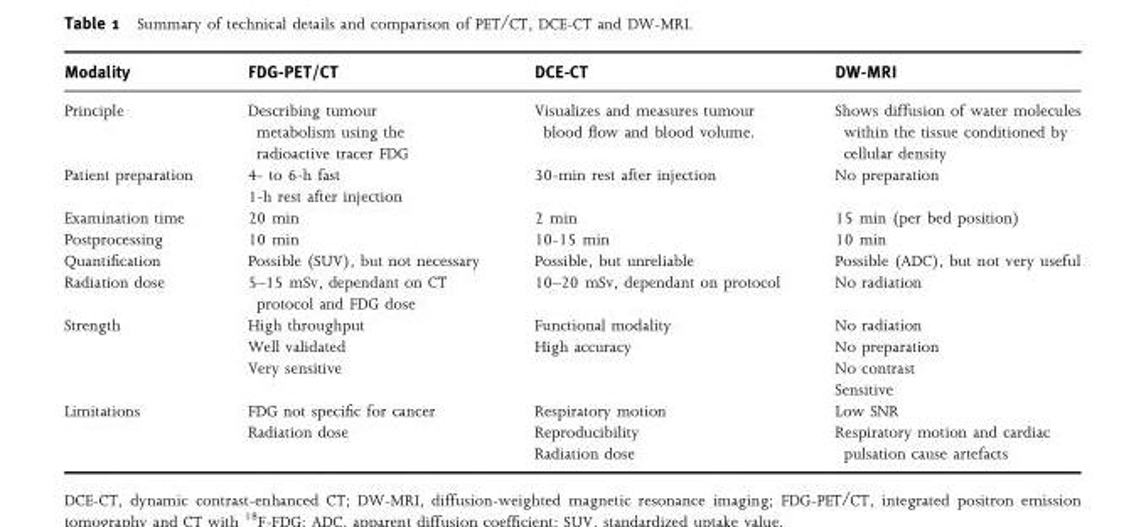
<table><thead><tr><td>Modality</td><td>FDG-PET/CT</td><td>DCE-CT</td><td>DW-MRI</td></tr></thead><tbody><tr><td>Principle</td><td>Describing tumour metabolism using the radioactive tracer FDG</td><td>Visualizes and measures tumour blood flow and blood volume.</td><td>Shows diffusion of water molecules within the tissue conditioned by cellular density</td></tr><tr><td>Patient preparation</td><td>4- to 6-h fast 1-h rest after injection</td><td>30-min rest after injection</td><td>No preparation</td></tr><tr><td>Examination time</td><td>20 min</td><td>2 min</td><td>15 min (per bed position)</td></tr><tr><td>Postprocessing</td><td>10 min</td><td>10-15 min</td><td>10 min</td></tr><tr><td>Quantification</td><td>Possible (SUV), but not necessary</td><td>Possible, but unreliable</td><td>Possible (ADC), but not very useful</td></tr><tr><td>Radiation dose</td><td>5–15 mSv, dependant on CT protocol and FDG dose</td><td>10–20 mSv, dependant on protocol</td><td>No radiation</td></tr><tr><td>Strength</td><td>High throughput Well validated Very sensitive</td><td>Functional modality High accuracy</td><td>No radiation No preparation No contrast Sensitive</td></tr><tr><td>Limitations</td><td>FDG not specific for cancer Radiation dose</td><td>Respiratory motion Reproducibility Radiation dose</td><td>Low SNR Respiratory motion and cardiac pulsation cause artefacts</td></tr></tbody></table>